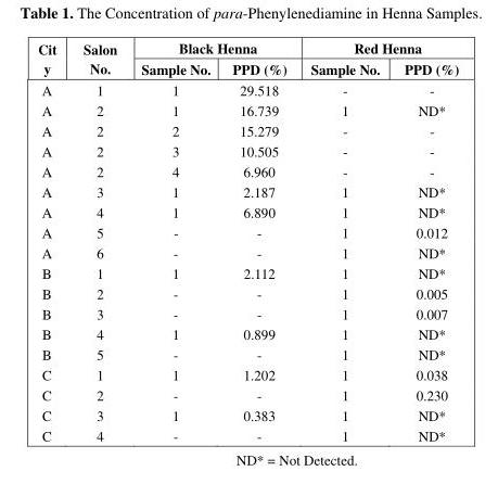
<table><thead><tr><td rowspan="2">Cit y</td><td rowspan="2">Salon No.</td><td colspan="2">Black Henna</td><td colspan="2">Red Henna</td></tr><tr><td>Sample No.</td><td>PPD (%)</td><td>Sample No.</td><td>PPD (%)</td></tr></thead><tbody><tr><td>A</td><td>1</td><td>1</td><td>29.518</td><td>-</td><td>-</td></tr><tr><td>A</td><td>2</td><td>1</td><td>16.739</td><td>1</td><td>ND*</td></tr><tr><td>A</td><td>2</td><td>2</td><td>15.279</td><td>-</td><td>-</td></tr><tr><td>A</td><td>2</td><td>3</td><td>10.505</td><td>-</td><td>-</td></tr><tr><td>A</td><td>2</td><td>4</td><td>6.960</td><td>-</td><td>-</td></tr><tr><td>A</td><td>3</td><td>1</td><td>2.187</td><td>1</td><td>ND*</td></tr><tr><td>A</td><td>4</td><td>1</td><td>6.890</td><td>1</td><td>ND*</td></tr><tr><td>A</td><td>5</td><td>-</td><td>-</td><td>1</td><td>0.012</td></tr><tr><td>A</td><td>6</td><td>-</td><td>-</td><td>1</td><td>ND*</td></tr><tr><td>B</td><td>1</td><td>1</td><td>2.112</td><td>1</td><td>ND*</td></tr><tr><td>B</td><td>2</td><td>-</td><td>-</td><td>1</td><td>0.005</td></tr><tr><td>B</td><td>3</td><td>-</td><td>-</td><td>1</td><td>0.007</td></tr><tr><td>B</td><td>4</td><td>1</td><td>0.899</td><td>1</td><td>ND*</td></tr><tr><td>B</td><td>5</td><td>-</td><td>-</td><td>1</td><td>ND*</td></tr><tr><td>C</td><td>1</td><td>1</td><td>1.202</td><td>1</td><td>0.038</td></tr><tr><td>C</td><td>2</td><td>-</td><td>-</td><td>1</td><td>0.230</td></tr><tr><td>C</td><td>3</td><td>1</td><td>0.383</td><td>1</td><td>ND*</td></tr><tr><td>C</td><td>4</td><td>-</td><td>-</td><td>1</td><td>ND*</td></tr></tbody></table>